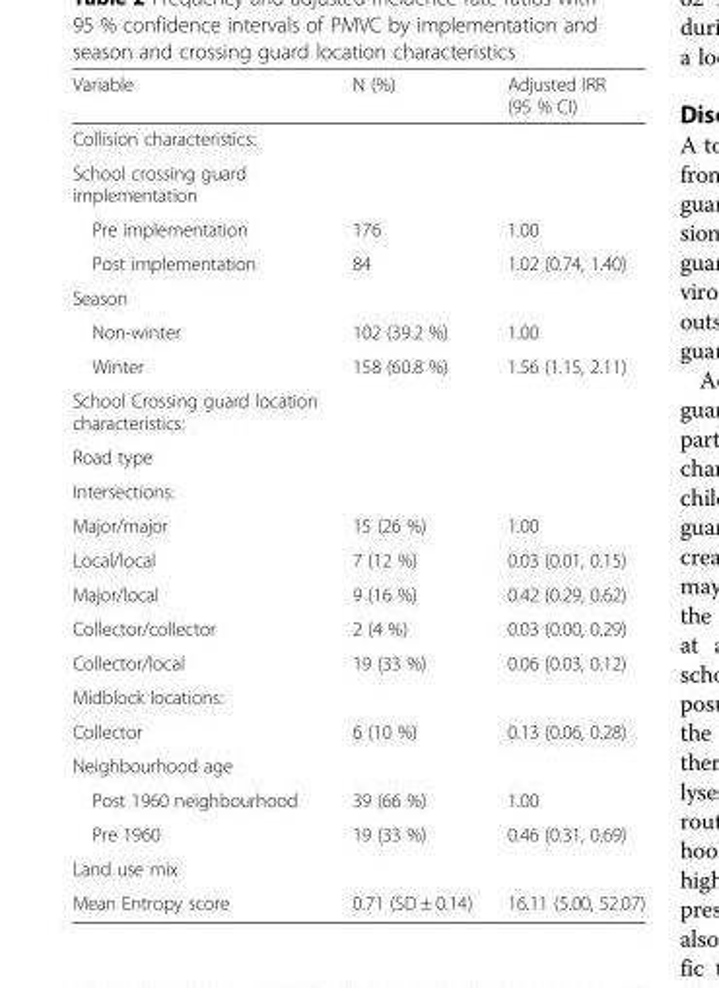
<table><thead><tr><td>Variable</td><td>N (%)</td><td>Adjusted IRR (95 % CI)</td></tr></thead><tbody><tr><td colspan="3">Collision characteristics:</td></tr><tr><td colspan="3">School crossing guard implementation</td></tr><tr><td>Pre implementation</td><td>176</td><td>1.00</td></tr><tr><td>Post implementation</td><td>84</td><td>1.02 (0.74, 1.40)</td></tr><tr><td colspan="3">Season</td></tr><tr><td>Non-winter</td><td>102 (39.2 %)</td><td>1.00</td></tr><tr><td>Winter</td><td>158 (60.8 %)</td><td>1.56 (1.15, 2.11)</td></tr><tr><td colspan="3">School Crossing guard location characteristics:</td></tr><tr><td colspan="3">Road type</td></tr><tr><td colspan="3">Intersections:</td></tr><tr><td>Major/major</td><td>15 (26 %)</td><td>1.00</td></tr><tr><td>Local/local</td><td>7 (12 %)</td><td>0.03 (0.01, 0.15)</td></tr><tr><td>Major/local</td><td>9 (16 %)</td><td>0.42 (0.29, 0.62)</td></tr><tr><td>Collector/collector</td><td>2 (4 %)</td><td>0.03 (0.00, 0.29)</td></tr><tr><td>Collector/local</td><td>19 (33 %)</td><td>0.06 (0.03, 0.12)</td></tr><tr><td colspan="3">Midblock locations:</td></tr><tr><td>Collector</td><td>6 (10 %)</td><td>0.13 (0.06, 0.28)</td></tr><tr><td colspan="3">Neighbourhood age</td></tr><tr><td>Post 1960 neighbourhood</td><td>39 (66 %)</td><td>1.00</td></tr><tr><td>Pre 1960</td><td>19 (33 %)</td><td>0.46 (0.31, 0.69)</td></tr><tr><td colspan="3">Land use mix</td></tr><tr><td>Mean Entropy score</td><td>0.71 (SD ± 0.14)</td><td>16.11 (5.00, 52.07)</td></tr></tbody></table>